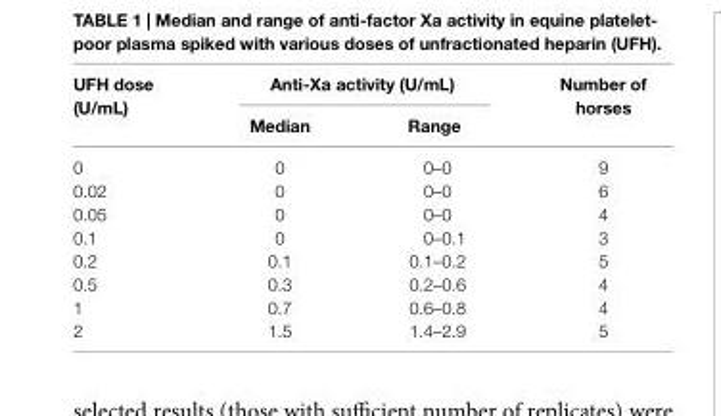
<table><thead><tr><td rowspan="2">UFh dose (U/ml)</td><td colspan="2">anti-Xa activity (U/ml)</td><td rowspan="2">number of horses</td></tr><tr><td>Median</td><td>range</td></tr></thead><tbody><tr><td>0</td><td>0</td><td>0–0</td><td>9</td></tr><tr><td>0.02</td><td>0</td><td>0–0</td><td>6</td></tr><tr><td>0.05</td><td>0</td><td>0–0</td><td>4</td></tr><tr><td>0.1</td><td>0</td><td>0–0.1</td><td>3</td></tr><tr><td>0.2</td><td>0.1</td><td>0.1–0.2</td><td>5</td></tr><tr><td>0.5</td><td>0.3</td><td>0.2–0.6</td><td>4</td></tr><tr><td>1</td><td>0.7</td><td>0.6–0.8</td><td>4</td></tr><tr><td>2</td><td>1.5</td><td>1.4–2.9</td><td>5</td></tr></tbody></table>